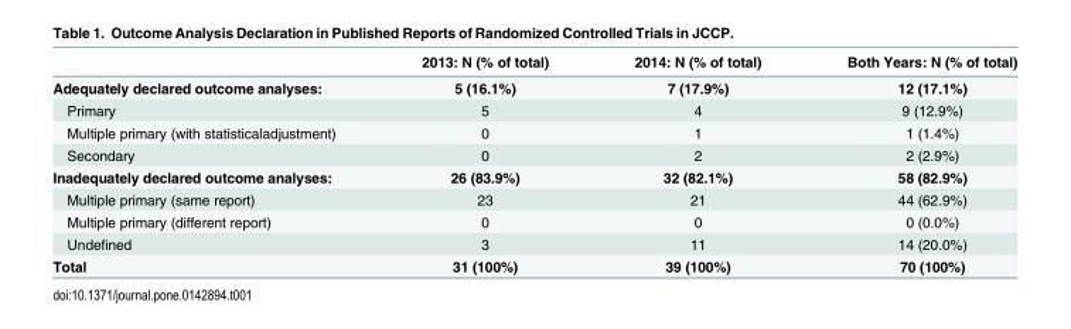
<table><thead><tr><td></td><td>2013: N (% of total)</td><td>2014: N (% of total)</td><td>Both Years: N (% of total)</td></tr></thead><tbody><tr><td>Adequately declared outcome analyses:</td><td>5 (16.1%)</td><td>7 (17.9%)</td><td>12 (17.1%)</td></tr><tr><td>Primary</td><td>5</td><td>4</td><td>9 (12.9%)</td></tr><tr><td>Multiple primary (with statisticaladjustment)</td><td>0</td><td>1</td><td>1 (1.4%)</td></tr><tr><td>Secondary</td><td>0</td><td>2</td><td>2 (2.9%)</td></tr><tr><td>Inadequately declared outcome analyses:</td><td>26 (83.9%)</td><td>32 (82.1%)</td><td>58 (82.9%)</td></tr><tr><td>Multiple primary (same report)</td><td>23</td><td>21</td><td>44 (62.9%)</td></tr><tr><td>Multiple primary (different report)</td><td>0</td><td>0</td><td>0 (0.0%)</td></tr><tr><td>Undefined</td><td>3</td><td>11</td><td>14 (20.0%)</td></tr><tr><td>Total</td><td>31 (100%)</td><td>39 (100%)</td><td>70 (100%)</td></tr></tbody></table>